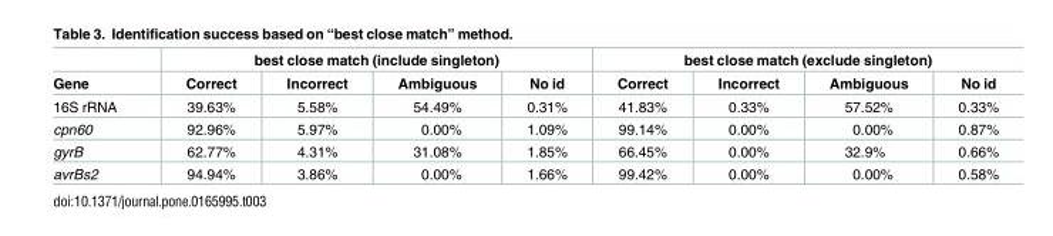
<table><thead><tr><td rowspan="2">Gene</td><td colspan="4">best close match (include singleton)</td><td colspan="4">best close match (exclude singleton)</td></tr><tr><td>Correct</td><td>Incorrect</td><td>Ambiguous</td><td>No id</td><td>Correct</td><td>Incorrect</td><td>Ambiguous</td><td>No id</td></tr></thead><tbody><tr><td>16S rRNA</td><td>39.63%</td><td>5.58%</td><td>54.49%</td><td>0.31%</td><td>41.83%</td><td>0.33%</td><td>57.52%</td><td>0.33%</td></tr><tr><td>cpn60</td><td>92.96%</td><td>5.97%</td><td>0.00%</td><td>1.09%</td><td>99.14%</td><td>0.00%</td><td>0.00%</td><td>0.87%</td></tr><tr><td>gyrB</td><td>62.77%</td><td>4.31%</td><td>31.08%</td><td>1.85%</td><td>66.45%</td><td>0.00%</td><td>32.9%</td><td>0.66%</td></tr><tr><td>avrBs2</td><td>94.94%</td><td>3.86%</td><td>0.00%</td><td>1.66%</td><td>99.42%</td><td>0.00%</td><td>0.00%</td><td>0.58%</td></tr></tbody></table>